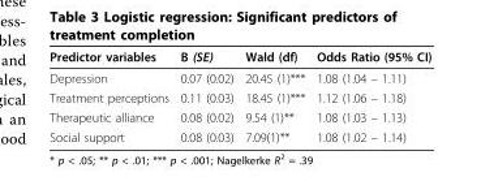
<table><thead><tr><td>Predictor variables</td><td>B (SE)</td><td>Wald (df)</td><td>Odds Ratio (95% CI)</td></tr></thead><tbody><tr><td>Depression</td><td>0.07 (0.02)</td><td>20.45 (1)***</td><td>1.08 (1.04 – 1.11)</td></tr><tr><td>Treatment perceptions</td><td>0.11 (0.03)</td><td>18.45 (1)***</td><td>1.12 (1.06 – 1.18)</td></tr><tr><td>Therapeutic alliance</td><td>0.08 (0.02)</td><td>9.54 (1)**</td><td>1.08 (1.03 – 1.13)</td></tr><tr><td>Social support</td><td>0.08 (0.03)</td><td>7.09(1)**</td><td>1.08 (1.02 – 1.14)</td></tr></tbody></table>